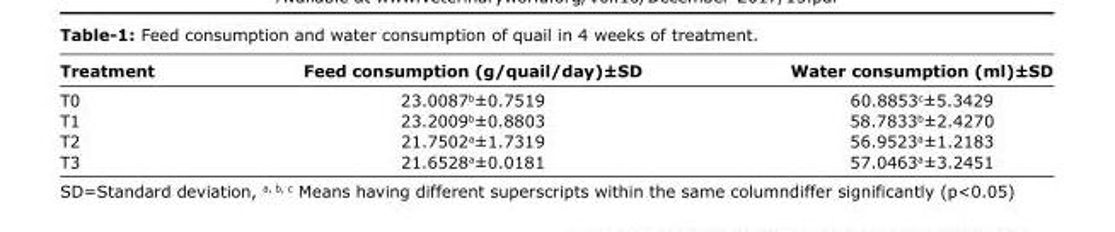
<table><thead><tr><td>Treatment</td><td>Feed consumption (g/quail/day)±SD</td><td>Water consumption (ml)±SD</td></tr></thead><tbody><tr><td>T0</td><td>23.0087<sup>b</sup>±0.7519</td><td>60.8853<sup>c</sup>±5.3429</td></tr><tr><td>T1</td><td>23.2009<sup>b</sup>±0.8803</td><td>58.7833<sup>b</sup>±2.4270</td></tr><tr><td>T2</td><td>21.7502<sup>a</sup>±1.7319</td><td>56.9523<sup>a</sup>±1.2183</td></tr><tr><td>T3</td><td>21.6528<sup>a</sup>±0.0181</td><td>57.0463<sup>a</sup>±3.2451</td></tr></tbody></table>